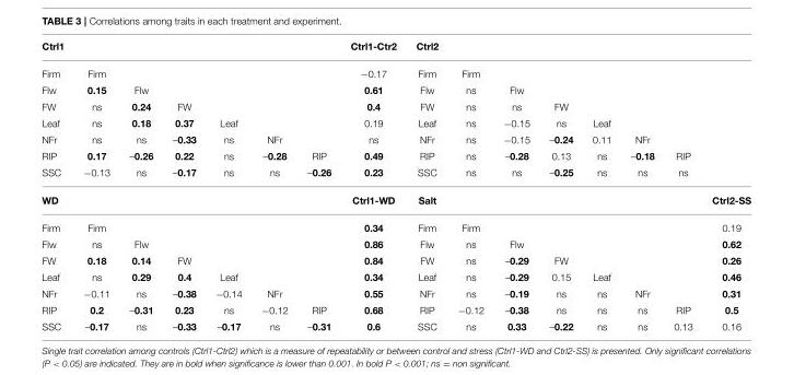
<table><thead><tr><td>Ctrl1</td><td></td><td></td><td></td><td></td><td></td><td></td><td>Ctrl1-Ctr2</td><td>Ctrl2</td><td></td><td></td><td></td><td></td><td></td><td></td><td></td></tr></thead><tbody><tr><td>Firm</td><td>Firm</td><td></td><td></td><td></td><td></td><td></td><td>−0.17</td><td>Firm</td><td>Firm</td><td></td><td></td><td></td><td></td><td></td><td></td></tr><tr><td>Flw</td><td>0.15</td><td>Flw</td><td></td><td></td><td></td><td></td><td>0.61</td><td>Flw</td><td>ns</td><td>Flw</td><td></td><td></td><td></td><td></td><td></td></tr><tr><td>FW</td><td>ns</td><td>0.24</td><td>FW</td><td></td><td></td><td></td><td>0.4</td><td>FW</td><td>ns</td><td>ns</td><td>FW</td><td></td><td></td><td></td><td></td></tr><tr><td>Leaf</td><td>ns</td><td>0.18</td><td>0.37</td><td>Leaf</td><td></td><td></td><td>0.19</td><td>Leaf</td><td>ns</td><td>−0.15</td><td>ns</td><td>Leaf</td><td></td><td></td><td></td></tr><tr><td>NFr</td><td>ns</td><td>ns</td><td>–0.33</td><td>ns</td><td>NFr</td><td></td><td>ns</td><td>NFr</td><td>ns</td><td>−0.15</td><td>–0.24</td><td>0.11</td><td>NFr</td><td></td><td></td></tr><tr><td>RIP</td><td>0.17</td><td>–0.26</td><td>0.22</td><td>ns</td><td>–0.28</td><td>RIP</td><td>0.49</td><td>RIP</td><td>ns</td><td>–0.28</td><td>0.13</td><td>ns</td><td>–0.18</td><td>RIP</td><td></td></tr><tr><td>SSC</td><td>−0.13</td><td>ns</td><td>–0.17</td><td>ns</td><td>ns</td><td>–0.26</td><td>0.23</td><td>SSC</td><td>ns</td><td>ns</td><td>–0.25</td><td>ns</td><td>ns</td><td>ns</td><td></td></tr><tr><td>WD</td><td></td><td></td><td></td><td></td><td></td><td></td><td>Ctrl1-WD</td><td>Salt</td><td></td><td></td><td></td><td></td><td></td><td></td><td>Ctrl2-SS</td></tr><tr><td>Firm</td><td>Firm</td><td></td><td></td><td></td><td></td><td></td><td>0.34</td><td>Firm</td><td>Firm</td><td></td><td></td><td></td><td></td><td></td><td>0.19</td></tr><tr><td>Flw</td><td>ns</td><td>Flw</td><td></td><td></td><td></td><td></td><td>0.86</td><td>Flw</td><td>ns</td><td>Flw</td><td></td><td></td><td></td><td></td><td>0.62</td></tr><tr><td>FW</td><td>0.18</td><td>0.14</td><td>FW</td><td></td><td></td><td></td><td>0.84</td><td>FW</td><td>ns</td><td>–0.29</td><td>FW</td><td></td><td></td><td></td><td>0.26</td></tr><tr><td>Leaf</td><td>ns</td><td>0.29</td><td>0.4</td><td>Leaf</td><td></td><td></td><td>0.34</td><td>Leaf</td><td>ns</td><td>–0.29</td><td>0.15</td><td>Leaf</td><td></td><td></td><td>0.46</td></tr><tr><td>NFr</td><td>−0.11</td><td>ns</td><td>–0.38</td><td>−0.14</td><td>NFr</td><td></td><td>0.55</td><td>NFr</td><td>ns</td><td>–0.19</td><td>ns</td><td>ns</td><td>NFr</td><td></td><td>0.31</td></tr><tr><td>RIP</td><td>0.2</td><td>–0.31</td><td>0.23</td><td>ns</td><td>−0.12</td><td>RIP</td><td>0.68</td><td>RIP</td><td>−0.12</td><td>–0.38</td><td>ns</td><td>ns</td><td>ns</td><td>RIP</td><td>0.5</td></tr><tr><td>SSC</td><td>–0.17</td><td>ns</td><td>–0.33</td><td>–0.17</td><td>ns</td><td>–0.31</td><td>0.6</td><td>SSC</td><td>ns</td><td>0.33</td><td>–0.22</td><td>ns</td><td>ns</td><td>0.13</td><td>0.16</td></tr></tbody></table>